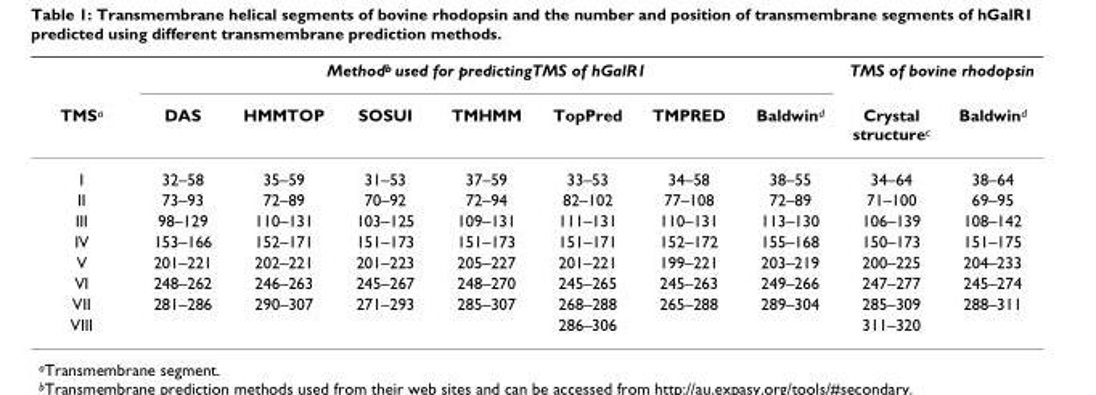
<table><thead><tr><td rowspan="2">TMS<sup>a</sup></td><td colspan="7">Method<sup>b</sup> used for predictingTMS of hGalR1</td><td colspan="2">TMS of bovine rhodopsin</td></tr><tr><td>DAS</td><td>HMMTOP</td><td>SOSUI</td><td>TMHMM</td><td>TopPred</td><td>TMPRED</td><td>Baldwin<sup>d</sup></td><td>Crystal structure<sup>c</sup></td><td>Baldwin<sup>d</sup></td></tr></thead><tbody><tr><td>I</td><td>32–58</td><td>35–59</td><td>31–53</td><td>37–59</td><td>33–53</td><td>34–58</td><td>38–55</td><td>34–64</td><td>38–64</td></tr><tr><td>II</td><td>73–93</td><td>72–89</td><td>70–92</td><td>72–94</td><td>82–102</td><td>77–108</td><td>72–89</td><td>71–100</td><td>69–95</td></tr><tr><td>III</td><td>98–129</td><td>110–131</td><td>103–125</td><td>109–131</td><td>111–131</td><td>110–131</td><td>113–130</td><td>106–139</td><td>108–142</td></tr><tr><td>IV</td><td>153–166</td><td>152–171</td><td>151–173</td><td>151–173</td><td>151–171</td><td>152–172</td><td>155–168</td><td>150–173</td><td>151–175</td></tr><tr><td>V</td><td>201–221</td><td>202–221</td><td>201–223</td><td>205–227</td><td>201–221</td><td>199–221</td><td>203–219</td><td>200–225</td><td>204–233</td></tr><tr><td>VI</td><td>248–262</td><td>246–263</td><td>245–267</td><td>248–270</td><td>245–265</td><td>245–263</td><td>249–266</td><td>247–277</td><td>245–274</td></tr><tr><td>VII</td><td>281–286</td><td>290–307</td><td>271–293</td><td>285–307</td><td>268–288</td><td>265–288</td><td>289–304</td><td>285–309</td><td>288–311</td></tr><tr><td>VIII</td><td></td><td></td><td></td><td></td><td>286–306</td><td></td><td></td><td>311–320</td><td></td></tr></tbody></table>